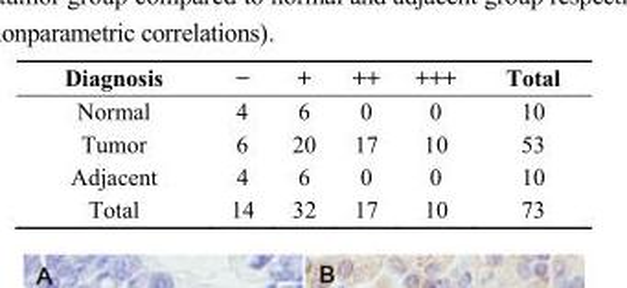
<table><thead><tr><td>Diagnosis</td><td>−</td><td>+</td><td>++</td><td>+++</td><td>Total</td></tr></thead><tbody><tr><td>Normal</td><td>4</td><td>6</td><td>0</td><td>0</td><td>10</td></tr><tr><td>Tumor</td><td>6</td><td>20</td><td>17</td><td>10</td><td>53</td></tr><tr><td>Adjacent</td><td>4</td><td>6</td><td>0</td><td>0</td><td>10</td></tr><tr><td>Total</td><td>14</td><td>32</td><td>17</td><td>10</td><td>73</td></tr></tbody></table>